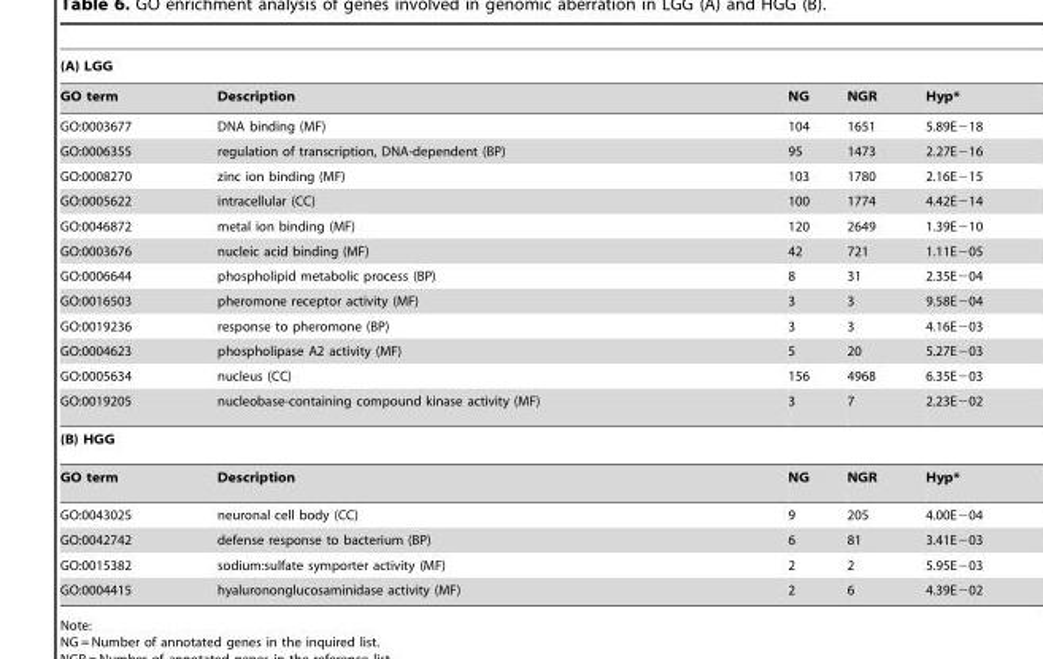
<table><thead><tr><td colspan="5">(A) LGG</td></tr><tr><td>GO term</td><td>Description</td><td>NG</td><td>NGR</td><td>Hyp*</td></tr></thead><tbody><tr><td>GO:0003677</td><td>DNA binding (MF)</td><td>104</td><td>1651</td><td>5.89E−18</td></tr><tr><td>GO:0006355</td><td>regulation of transcription, DNA-dependent (BP)</td><td>95</td><td>1473</td><td>2.27E−16</td></tr><tr><td>GO:0008270</td><td>zinc ion binding (MF)</td><td>103</td><td>1780</td><td>2.16E−15</td></tr><tr><td>GO:0005622</td><td>intracellular (CC)</td><td>100</td><td>1774</td><td>4.42E−14</td></tr><tr><td>GO:0046872</td><td>metal ion binding (MF)</td><td>120</td><td>2649</td><td>1.39E−10</td></tr><tr><td>GO:0003676</td><td>nucleic acid binding (MF)</td><td>42</td><td>721</td><td>1.11E−05</td></tr><tr><td>GO:0006644</td><td>phospholipid metabolic process (BP)</td><td>8</td><td>31</td><td>2.35E−04</td></tr><tr><td>GO:0016503</td><td>pheromone receptor activity (MF)</td><td>3</td><td>3</td><td>9.58E−04</td></tr><tr><td>GO:0019236</td><td>response to pheromone (BP)</td><td>3</td><td>3</td><td>4.16E−03</td></tr><tr><td>GO:0004623</td><td>phospholipase A2 activity (MF)</td><td>5</td><td>20</td><td>5.27E−03</td></tr><tr><td>GO:0005634</td><td>nucleus (CC)</td><td>156</td><td>4968</td><td>6.35E−03</td></tr><tr><td>GO:0019205</td><td>nucleobase-containing compound kinase activity (MF)</td><td>3</td><td>7</td><td>2.23E−02</td></tr><tr><td colspan="5">(B) HGG</td></tr><tr><td>GO term</td><td>Description</td><td>NG</td><td>NGR</td><td>Hyp*</td></tr><tr><td>GO:0043025</td><td>neuronal cell body (CC)</td><td>9</td><td>205</td><td>4.00E−04</td></tr><tr><td>GO:0042742</td><td>defense response to bacterium (BP)</td><td>6</td><td>81</td><td>3.41E−03</td></tr><tr><td>GO:0015382</td><td>sodium:sulfate symporter activity (MF)</td><td>2</td><td>2</td><td>5.95E−03</td></tr><tr><td>GO:0004415</td><td>hyalurononglucosaminidase activity (MF)</td><td>2</td><td>6</td><td>4.39E−02</td></tr></tbody></table>